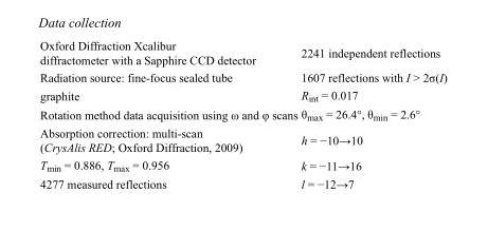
<table><tbody><tr><td>Oxford Diffraction Xcalibur diffractometer with a Sapphire CCD detector</td><td>2241 independent reflections</td></tr><tr><td>Radiation source: fine-focus sealed tube</td><td>1607 reflections with I &gt; 2σ(I)</td></tr><tr><td>graphite</td><td>R<sub>int</sub> = 0.017</td></tr><tr><td>Rotation method data acquisition using ω and φ scans</td><td>θ<sub>max</sub> = 26.4°, θ<sub>min</sub> = 2.6°</td></tr><tr><td>Absorption correction: multi-scan (CrysAlis RED; Oxford Diffraction, 2009)</td><td>h = −10→10</td></tr><tr><td>T<sub>min</sub> = 0.886, T<sub>max</sub> = 0.956</td><td>k = −11→16</td></tr><tr><td>4277 measured reflections</td><td>l = −12→7</td></tr></tbody></table>